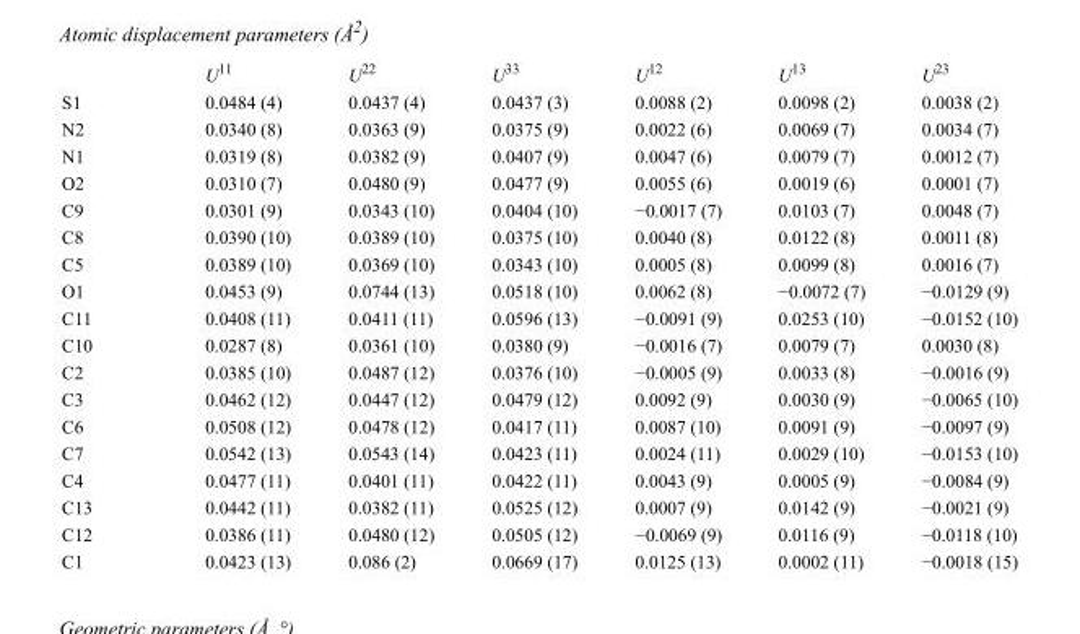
<table><thead><tr><td></td><td>U<sup>11</sup></td><td>U<sup>22</sup></td><td>U<sup>33</sup></td><td>U<sup>12</sup></td><td>U<sup>13</sup></td><td>U<sup>23</sup></td></tr></thead><tbody><tr><td>S1</td><td>0.0484 (4)</td><td>0.0437 (4)</td><td>0.0437 (3)</td><td>0.0088 (2)</td><td>0.0098 (2)</td><td>0.0038 (2)</td></tr><tr><td>N2</td><td>0.0340 (8)</td><td>0.0363 (9)</td><td>0.0375 (9)</td><td>0.0022 (6)</td><td>0.0069 (7)</td><td>0.0034 (7)</td></tr><tr><td>N1</td><td>0.0319 (8)</td><td>0.0382 (9)</td><td>0.0407 (9)</td><td>0.0047 (6)</td><td>0.0079 (7)</td><td>0.0012 (7)</td></tr><tr><td>O2</td><td>0.0310 (7)</td><td>0.0480 (9)</td><td>0.0477 (9)</td><td>0.0055 (6)</td><td>0.0019 (6)</td><td>0.0001 (7)</td></tr><tr><td>C9</td><td>0.0301 (9)</td><td>0.0343 (10)</td><td>0.0404 (10)</td><td>−0.0017 (7)</td><td>0.0103 (7)</td><td>0.0048 (7)</td></tr><tr><td>C8</td><td>0.0390 (10)</td><td>0.0389 (10)</td><td>0.0375 (10)</td><td>0.0040 (8)</td><td>0.0122 (8)</td><td>0.0011 (8)</td></tr><tr><td>C5</td><td>0.0389 (10)</td><td>0.0369 (10)</td><td>0.0343 (10)</td><td>0.0005 (8)</td><td>0.0099 (8)</td><td>0.0016 (7)</td></tr><tr><td>O1</td><td>0.0453 (9)</td><td>0.0744 (13)</td><td>0.0518 (10)</td><td>0.0062 (8)</td><td>−0.0072 (7)</td><td>−0.0129 (9)</td></tr><tr><td>C11</td><td>0.0408 (11)</td><td>0.0411 (11)</td><td>0.0596 (13)</td><td>−0.0091 (9)</td><td>0.0253 (10)</td><td>−0.0152 (10)</td></tr><tr><td>C10</td><td>0.0287 (8)</td><td>0.0361 (10)</td><td>0.0380 (9)</td><td>−0.0016 (7)</td><td>0.0079 (7)</td><td>0.0030 (8)</td></tr><tr><td>C2</td><td>0.0385 (10)</td><td>0.0487 (12)</td><td>0.0376 (10)</td><td>−0.0005 (9)</td><td>0.0033 (8)</td><td>−0.0016 (9)</td></tr><tr><td>C3</td><td>0.0462 (12)</td><td>0.0447 (12)</td><td>0.0479 (12)</td><td>0.0092 (9)</td><td>0.0030 (9)</td><td>−0.0065 (10)</td></tr><tr><td>C6</td><td>0.0508 (12)</td><td>0.0478 (12)</td><td>0.0417 (11)</td><td>0.0087 (10)</td><td>0.0091 (9)</td><td>−0.0097 (9)</td></tr><tr><td>C7</td><td>0.0542 (13)</td><td>0.0543 (14)</td><td>0.0423 (11)</td><td>0.0024 (11)</td><td>0.0029 (10)</td><td>−0.0153 (10)</td></tr><tr><td>C4</td><td>0.0477 (11)</td><td>0.0401 (11)</td><td>0.0422 (11)</td><td>0.0043 (9)</td><td>0.0005 (9)</td><td>−0.0084 (9)</td></tr><tr><td>C13</td><td>0.0442 (11)</td><td>0.0382 (11)</td><td>0.0525 (12)</td><td>0.0007 (9)</td><td>0.0142 (9)</td><td>−0.0021 (9)</td></tr><tr><td>C12</td><td>0.0386 (11)</td><td>0.0480 (12)</td><td>0.0505 (12)</td><td>−0.0069 (9)</td><td>0.0116 (9)</td><td>−0.0118 (10)</td></tr><tr><td>C1</td><td>0.0423 (13)</td><td>0.086 (2)</td><td>0.0669 (17)</td><td>0.0125 (13)</td><td>0.0002 (11)</td><td>−0.0018 (15)</td></tr></tbody></table>